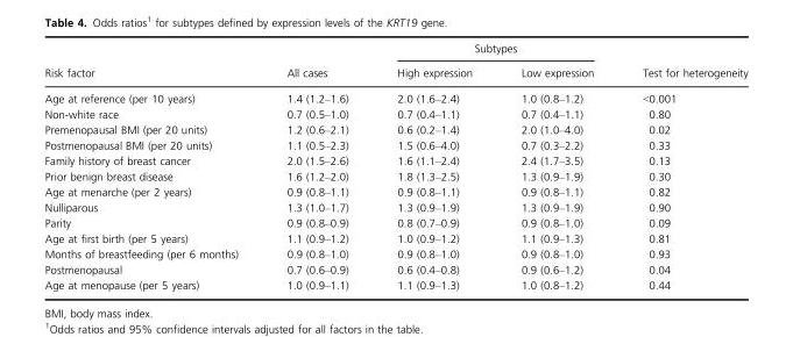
<table><thead><tr><td rowspan="2">Risk factor</td><td rowspan="2">All cases</td><td colspan="2">Subtypes</td><td rowspan="2">Test for heterogeneity</td></tr><tr><td>High expression</td><td>Low expression</td></tr></thead><tbody><tr><td>Age at reference (per 10 years)</td><td>1.4 (1.2–1.6)</td><td>2.0 (1.6–2.4)</td><td>1.0 (0.8–1.2)</td><td>&lt;0.001</td></tr><tr><td>Non-white race</td><td>0.7 (0.5–1.0)</td><td>0.7 (0.4–1.1)</td><td>0.7 (0.4–1.1)</td><td>0.80</td></tr><tr><td>Premenopausal BMI (per 20 units)</td><td>1.2 (0.6–2.1)</td><td>0.6 (0.2–1.4)</td><td>2.0 (1.0–4.0)</td><td>0.02</td></tr><tr><td>Postmenopausal BMI (per 20 units)</td><td>1.1 (0.5–2.3)</td><td>1.5 (0.6–4.0)</td><td>0.7 (0.3–2.2)</td><td>0.33</td></tr><tr><td>Family history of breast cancer</td><td>2.0 (1.5–2.6)</td><td>1.6 (1.1–2.4)</td><td>2.4 (1.7–3.5)</td><td>0.13</td></tr><tr><td>Prior benign breast disease</td><td>1.6 (1.2–2.0)</td><td>1.8 (1.3–2.5)</td><td>1.3 (0.9–1.9)</td><td>0.30</td></tr><tr><td>Age at menarche (per 2 years)</td><td>0.9 (0.8–1.1)</td><td>0.9 (0.8–1.1)</td><td>0.9 (0.8–1.1)</td><td>0.82</td></tr><tr><td>Nulliparous</td><td>1.3 (1.0–1.7)</td><td>1.3 (0.9–1.9)</td><td>1.3 (0.9–1.9)</td><td>0.90</td></tr><tr><td>Parity</td><td>0.9 (0.8–0.9)</td><td>0.8 (0.7–0.9)</td><td>0.9 (0.8–1.0)</td><td>0.09</td></tr><tr><td>Age at first birth (per 5 years)</td><td>1.1 (0.9–1.2)</td><td>1.0 (0.9–1.2)</td><td>1.1 (0.9–1.3)</td><td>0.81</td></tr><tr><td>Months of breastfeeding (per 6 months)</td><td>0.9 (0.8–1.0)</td><td>0.9 (0.8–1.0)</td><td>0.9 (0.8–1.0)</td><td>0.93</td></tr><tr><td>Postmenopausal</td><td>0.7 (0.6–0.9)</td><td>0.6 (0.4–0.8)</td><td>0.9 (0.6–1.2)</td><td>0.04</td></tr><tr><td>Age at menopause (per 5 years)</td><td>1.0 (0.9–1.1)</td><td>1.1 (0.9–1.3)</td><td>1.0 (0.8–1.2)</td><td>0.44</td></tr></tbody></table>